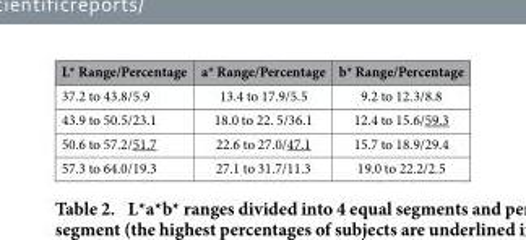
<table><thead><tr><td>L* Range/Percentage</td><td>a* Range/Percentage</td><td>b* Range/Percentage</td></tr></thead><tbody><tr><td>37.2 to 43.8/5.9</td><td>13.4 to 17.9/5.5</td><td>9.2 to 12.3/8.8</td></tr><tr><td>43.9 to 50.5/23.1</td><td>18.0 to 22. 5/36.1</td><td>12.4 to 15.6/59.3</td></tr><tr><td>50.6 to 57.2/51.7</td><td>22.6 to 27.0/47.1</td><td>15.7 to 18.9/29.4</td></tr><tr><td>57.3 to 64.0/19.3</td><td>27.1 to 31.7/11.3</td><td>19.0 to 22.2/2.5</td></tr></tbody></table>